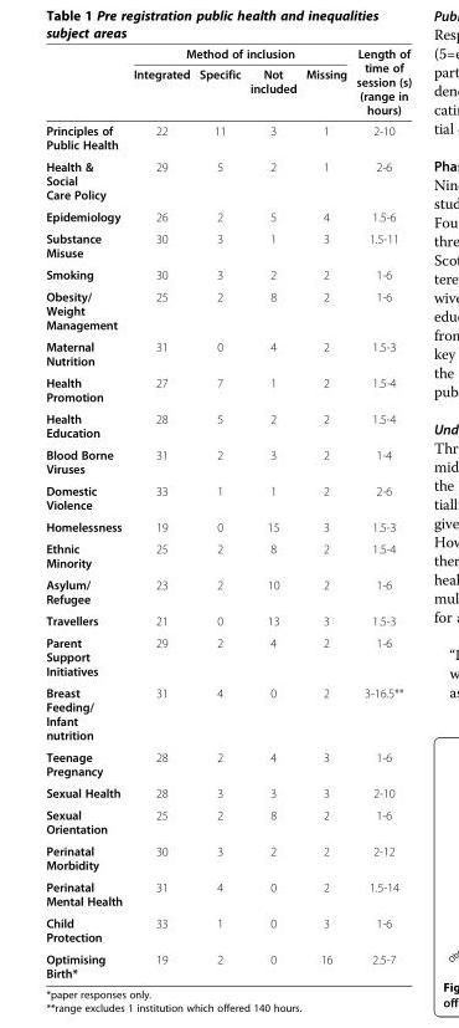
<table><thead><tr><td rowspan="2"></td><td colspan="4">Method of inclusion</td><td rowspan="2">Length of time of session (s) (range in hours)</td></tr><tr><td>Integrated</td><td>Specific</td><td>Not included</td><td>Missing</td></tr></thead><tbody><tr><td>Principles of Public Health</td><td>22</td><td>11</td><td>3</td><td>1</td><td>2-10</td></tr><tr><td>Health &amp; Social Care Policy</td><td>29</td><td>5</td><td>2</td><td>1</td><td>2-6</td></tr><tr><td>Epidemiology</td><td>26</td><td>2</td><td>5</td><td>4</td><td>1.5-6</td></tr><tr><td>Substance Misuse</td><td>30</td><td>3</td><td>1</td><td>3</td><td>1.5-11</td></tr><tr><td>Smoking</td><td>30</td><td>3</td><td>2</td><td>2</td><td>1-6</td></tr><tr><td>Obesity/ Weight Management</td><td>25</td><td>2</td><td>8</td><td>2</td><td>1-6</td></tr><tr><td>Maternal Nutrition</td><td>31</td><td>0</td><td>4</td><td>2</td><td>1.5-3</td></tr><tr><td>Health Promotion</td><td>27</td><td>7</td><td>1</td><td>2</td><td>1.5-4</td></tr><tr><td>Health Education</td><td>28</td><td>5</td><td>2</td><td>2</td><td>1.5-4</td></tr><tr><td>Blood Borne Viruses</td><td>31</td><td>2</td><td>3</td><td>2</td><td>1-4</td></tr><tr><td>Domestic Violence</td><td>33</td><td>1</td><td>1</td><td>2</td><td>2-6</td></tr><tr><td>Homelessness</td><td>19</td><td>0</td><td>15</td><td>3</td><td>1.5-3</td></tr><tr><td>Ethnic Minority</td><td>25</td><td>2</td><td>8</td><td>2</td><td>1.5-4</td></tr><tr><td>Asylum/ Refugee</td><td>23</td><td>2</td><td>10</td><td>2</td><td>1-6</td></tr><tr><td>Travellers</td><td>21</td><td>0</td><td>13</td><td>3</td><td>1.5-3</td></tr><tr><td>Parent Support Initiatives</td><td>29</td><td>2</td><td>4</td><td>2</td><td>1-6</td></tr><tr><td>Breast Feeding/ Infant nutrition</td><td>31</td><td>4</td><td>0</td><td>2</td><td>3-16.5**</td></tr><tr><td>Teenage Pregnancy</td><td>28</td><td>2</td><td>4</td><td>3</td><td>1-6</td></tr><tr><td>Sexual Health</td><td>28</td><td>3</td><td>3</td><td>3</td><td>2-10</td></tr><tr><td>Sexual Orientation</td><td>25</td><td>2</td><td>8</td><td>2</td><td>1-6</td></tr><tr><td>Perinatal Morbidity</td><td>30</td><td>3</td><td>2</td><td>2</td><td>2-12</td></tr><tr><td>Perinatal Mental Health</td><td>31</td><td>4</td><td>0</td><td>2</td><td>1.5-14</td></tr><tr><td>Child Protection</td><td>33</td><td>1</td><td>0</td><td>3</td><td>1-6</td></tr><tr><td>Optimising Birth*</td><td>19</td><td>2</td><td>0</td><td>16</td><td>2.5-7</td></tr></tbody></table>